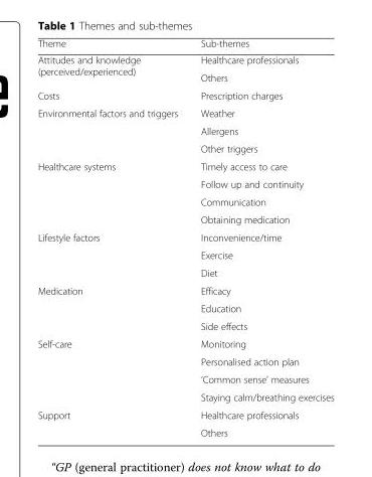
<table><thead><tr><td>Theme</td><td>Sub-themes</td></tr></thead><tbody><tr><td rowspan="2">Attitudes and knowledge (perceived/experienced)</td><td>Healthcare professionals</td></tr><tr><td>Others</td></tr><tr><td>Costs</td><td>Prescription charges</td></tr><tr><td rowspan="3">Environmental factors and triggers</td><td>Weather</td></tr><tr><td>Allergens</td></tr><tr><td>Other triggers</td></tr><tr><td rowspan="4">Healthcare systems</td><td>Timely access to care</td></tr><tr><td>Follow up and continuity</td></tr><tr><td>Communication</td></tr><tr><td>Obtaining medication</td></tr><tr><td rowspan="3">Lifestyle factors</td><td>Inconvenience/time</td></tr><tr><td>Exercise</td></tr><tr><td>Diet</td></tr><tr><td rowspan="3">Medication</td><td>Efficacy</td></tr><tr><td>Education</td></tr><tr><td>Side effects</td></tr><tr><td rowspan="4">Self-care</td><td>Monitoring</td></tr><tr><td>Personalised action plan</td></tr><tr><td>‘Common sense’ measures</td></tr><tr><td>Staying calm/breathing exercises</td></tr><tr><td rowspan="2">Support</td><td>Healthcare professionals</td></tr><tr><td>Others</td></tr></tbody></table>